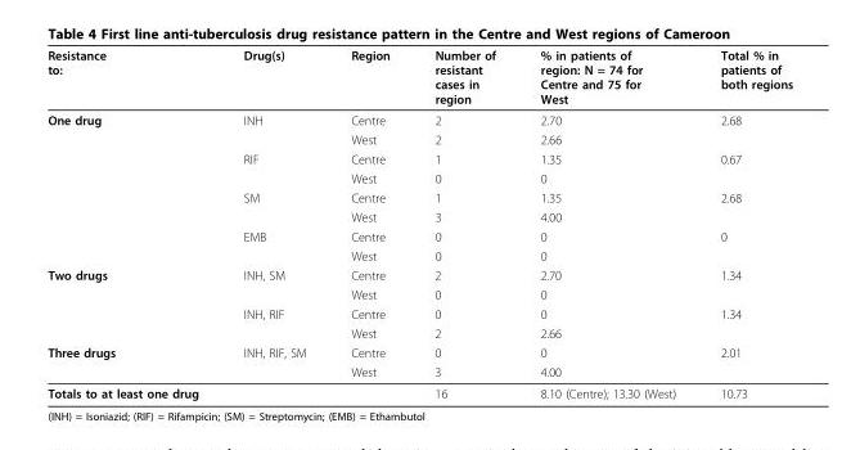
<table><thead><tr><td>Resistance to:</td><td>Drug(s)</td><td>Region</td><td>Number of resistant cases in region</td><td>% in patients of region: N = 74 for Centre and 75 for West</td><td>Total % in patients of both regions</td></tr></thead><tbody><tr><td rowspan="8">One drug</td><td>INH</td><td>Centre</td><td>2</td><td>2.70</td><td>2.68</td></tr><tr><td></td><td>West</td><td>2</td><td>2.66</td><td></td></tr><tr><td>RIF</td><td>Centre</td><td>1</td><td>1.35</td><td>0.67</td></tr><tr><td></td><td>West</td><td>0</td><td>0</td><td></td></tr><tr><td>SM</td><td>Centre</td><td>1</td><td>1.35</td><td>2.68</td></tr><tr><td></td><td>West</td><td>3</td><td>4.00</td><td></td></tr><tr><td>EMB</td><td>Centre</td><td>0</td><td>0</td><td>0</td></tr><tr><td></td><td>West</td><td>0</td><td>0</td><td></td></tr><tr><td rowspan="4">Two drugs</td><td>INH, SM</td><td>Centre</td><td>2</td><td>2.70</td><td>1.34</td></tr><tr><td></td><td>West</td><td>0</td><td>0</td><td></td></tr><tr><td>INH, RIF</td><td>Centre</td><td>0</td><td>0</td><td>1.34</td></tr><tr><td></td><td>West</td><td>2</td><td>2.66</td><td></td></tr><tr><td rowspan="2">Three drugs</td><td>INH, RIF, SM</td><td>Centre</td><td>0</td><td>0</td><td>2.01</td></tr><tr><td></td><td>West</td><td>3</td><td>4.00</td><td></td></tr><tr><td>Totals to at least one drug</td><td></td><td></td><td>16</td><td>8.10 (Centre); 13.30 (West)</td><td>10.73</td></tr></tbody></table>